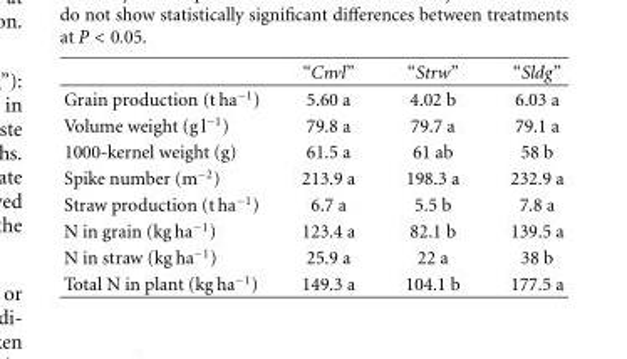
<table><thead><tr><td></td><td>“Cnvl”</td><td>“Strw”</td><td>“Sldg”</td></tr></thead><tbody><tr><td>Grain production (t ha<sup>−1</sup>)</td><td>5.60 a</td><td>4.02 b</td><td>6.03 a</td></tr><tr><td>Volume weight (g l<sup>−1</sup>)</td><td>79.8 a</td><td>79.7 a</td><td>79.1 a</td></tr><tr><td>1000-kernel weight (g)</td><td>61.5 a</td><td>61 ab</td><td>58 b</td></tr><tr><td>Spike number (m<sup>−2</sup>)</td><td>213.9 a</td><td>198.3 a</td><td>232.9 a</td></tr><tr><td>Straw production (t ha<sup>−1</sup>)</td><td>6.7 a</td><td>5.5 b</td><td>7.8 a</td></tr><tr><td>N in grain (kg ha<sup>−1</sup>)</td><td>123.4 a</td><td>82.1 b</td><td>139.5 a</td></tr><tr><td>N in straw (kg ha<sup>−1</sup>)</td><td>25.9 a</td><td>22 a</td><td>38 b</td></tr><tr><td>Total N in plant (kg ha<sup>−1</sup>)</td><td>149.3 a</td><td>104.1 b</td><td>177.5 a</td></tr></tbody></table>